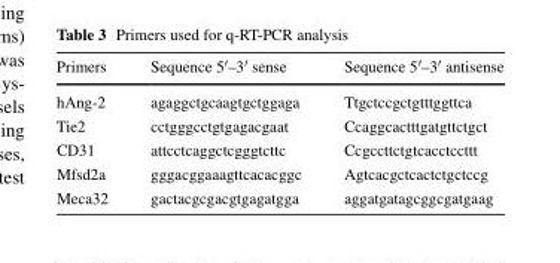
<table><thead><tr><td>Primers</td><td>Sequence 5′–3′ sense</td><td>Sequence 5′–3′ antisense</td></tr></thead><tbody><tr><td>hAng-2</td><td>agaggctgcaagtgctggaga</td><td>Ttgctccgctgtttggttca</td></tr><tr><td>Tie2</td><td>cctgggcctgtgagacgaat</td><td>Ccaggcactttgatgttctgct</td></tr><tr><td>CD31</td><td>attcctcaggctcgggtcttc</td><td>Ccgccttctgtcacctccttt</td></tr><tr><td>Mfsd2a</td><td>gggacggaaagttcacacggc</td><td>Agtcacgctcactctgctccg</td></tr><tr><td>Meca32</td><td>gactacgcgacgtgagatgga</td><td>aggatgatagcggcgatgaag</td></tr></tbody></table>